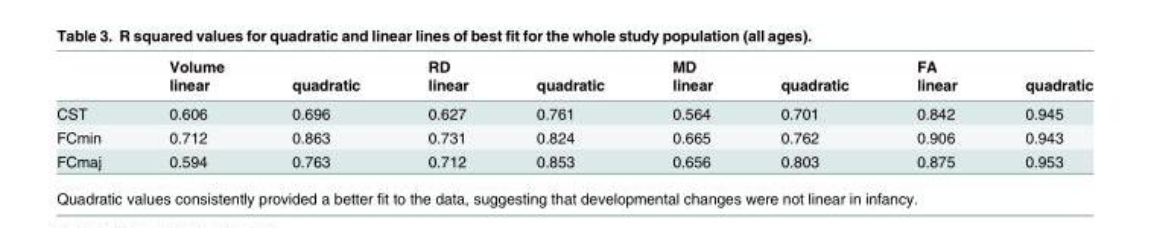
<table><thead><tr><td rowspan="2"></td><td rowspan="2">Volume linear</td><td rowspan="2">quadratic</td><td rowspan="2">RD linear</td><td rowspan="2">quadratic</td><td rowspan="2">MD linear</td><td rowspan="2">quadratic</td><td rowspan="2">FA linear</td><td rowspan="2">quadratic</td></tr><tr></tr></thead><tbody><tr><td>CST</td><td>0.606</td><td>0.696</td><td>0.627</td><td>0.761</td><td>0.564</td><td>0.701</td><td>0.842</td><td>0.945</td></tr><tr><td>FCmin</td><td>0.712</td><td>0.863</td><td>0.731</td><td>0.824</td><td>0.665</td><td>0.762</td><td>0.906</td><td>0.943</td></tr><tr><td>FCmaj</td><td>0.594</td><td>0.763</td><td>0.712</td><td>0.853</td><td>0.656</td><td>0.803</td><td>0.875</td><td>0.953</td></tr></tbody></table>